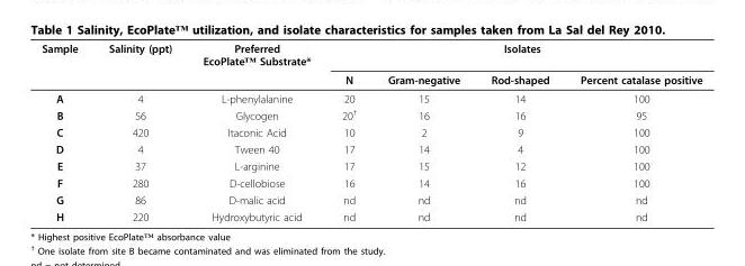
<table><thead><tr><td rowspan="2">Sample</td><td rowspan="2">Salinity (ppt)</td><td rowspan="2">Preferred EcoPlate™ Substrate*</td><td colspan="4">Isolates</td></tr><tr><td>N</td><td>Gram-negative</td><td>Rod-shaped</td><td>Percent catalase positive</td></tr></thead><tbody><tr><td>A</td><td>4</td><td>L-phenylalanine</td><td>20</td><td>15</td><td>14</td><td>100</td></tr><tr><td>B</td><td>56</td><td>Glycogen</td><td>20<sup>†</sup></td><td>16</td><td>16</td><td>95</td></tr><tr><td>C</td><td>420</td><td>Itaconic Acid</td><td>10</td><td>2</td><td>9</td><td>100</td></tr><tr><td>D</td><td>4</td><td>Tween 40</td><td>17</td><td>14</td><td>4</td><td>100</td></tr><tr><td>E</td><td>37</td><td>L-arginine</td><td>17</td><td>15</td><td>12</td><td>100</td></tr><tr><td>F</td><td>280</td><td>D-cellobiose</td><td>16</td><td>14</td><td>16</td><td>100</td></tr><tr><td>G</td><td>86</td><td>D-malic acid</td><td>nd</td><td>nd</td><td>nd</td><td>nd</td></tr><tr><td>H</td><td>220</td><td>Hydroxybutyric acid</td><td>nd</td><td>nd</td><td>nd</td><td>nd</td></tr></tbody></table>